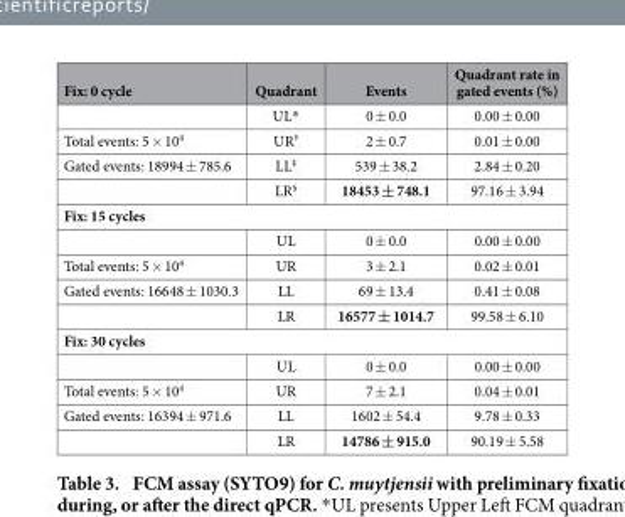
<table><thead><tr><td>Fix: 0 cycle</td><td>Quadrant</td><td>Events</td><td>Quadrant rate in gated events (%)</td></tr></thead><tbody><tr><td></td><td>UL*</td><td>0 ± 0.0</td><td>0.00 ± 0.00</td></tr><tr><td>Total events: 5 × 10<sup>4</sup></td><td>UR†</td><td>2 ± 0.7</td><td>0.01 ± 0.00</td></tr><tr><td rowspan="2">Gated events: 18994 ± 785.6</td><td>LL‡</td><td>539 ± 38.2</td><td>2.84 ± 0.20</td></tr><tr><td>LR§</td><td>18453 ± 748.1</td><td>97.16 ± 3.94</td></tr><tr><td colspan="4">Fix: 15 cycles</td></tr><tr><td></td><td>UL</td><td>0 ± 0.0</td><td>0.00 ± 0.00</td></tr><tr><td>Total events: 5 × 10<sup>4</sup></td><td>UR</td><td>3 ± 2.1</td><td>0.02 ± 0.01</td></tr><tr><td rowspan="2">Gated events: 16648 ± 1030.3</td><td>LL</td><td>69 ± 13.4</td><td>0.41 ± 0.08</td></tr><tr><td>LR</td><td>16577 ± 1014.7</td><td>99.58 ± 6.10</td></tr><tr><td colspan="4">Fix: 30 cycles</td></tr><tr><td></td><td>UL</td><td>0 ± 0.0</td><td>0.00 ± 0.00</td></tr><tr><td>Total events: 5 × 10<sup>4</sup></td><td>UR</td><td>7 ± 2.1</td><td>0.04 ± 0.01</td></tr><tr><td rowspan="2">Gated events: 16394 ± 971.6</td><td>LL</td><td>1602 ± 54.4</td><td>9.78 ± 0.33</td></tr><tr><td>LR</td><td>14786 ± 915.0</td><td>90.19 ± 5.58</td></tr></tbody></table>